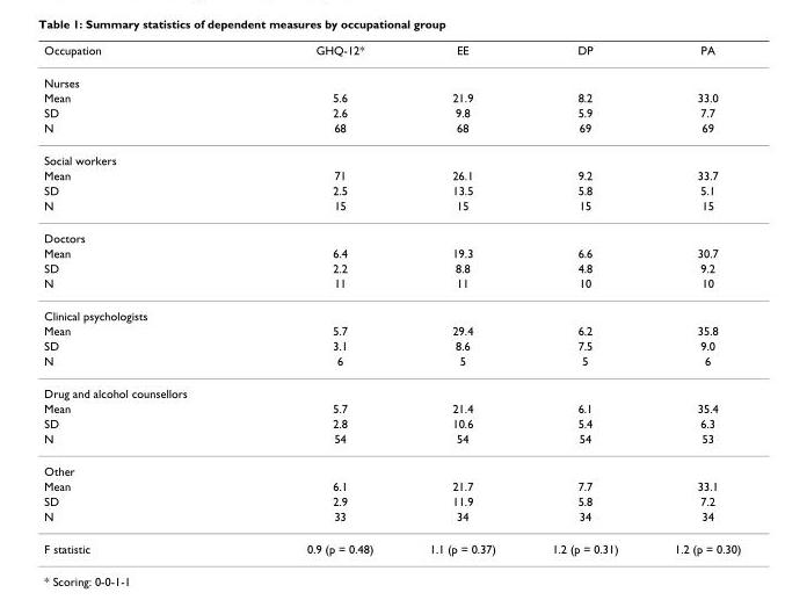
<table><thead><tr><td>Occupation</td><td>GHQ-12*</td><td>EE</td><td>DP</td><td>PA</td></tr></thead><tbody><tr><td colspan="5">Nurses</td></tr><tr><td>Mean</td><td>5.6</td><td>21.9</td><td>8.2</td><td>33.0</td></tr><tr><td>SD</td><td>2.6</td><td>9.8</td><td>5.9</td><td>7.7</td></tr><tr><td>N</td><td>68</td><td>68</td><td>69</td><td>69</td></tr><tr><td colspan="5">Social workers</td></tr><tr><td>Mean</td><td>71</td><td>26.1</td><td>9.2</td><td>33.7</td></tr><tr><td>SD</td><td>2.5</td><td>13.5</td><td>5.8</td><td>5.1</td></tr><tr><td>N</td><td>15</td><td>15</td><td>15</td><td>15</td></tr><tr><td colspan="5">Doctors</td></tr><tr><td>Mean</td><td>6.4</td><td>19.3</td><td>6.6</td><td>30.7</td></tr><tr><td>SD</td><td>2.2</td><td>8.8</td><td>4.8</td><td>9.2</td></tr><tr><td>N</td><td>11</td><td>11</td><td>10</td><td>10</td></tr><tr><td colspan="5">Clinical psychologists</td></tr><tr><td>Mean</td><td>5.7</td><td>29.4</td><td>6.2</td><td>35.8</td></tr><tr><td>SD</td><td>3.1</td><td>8.6</td><td>7.5</td><td>9.0</td></tr><tr><td>N</td><td>6</td><td>5</td><td>5</td><td>6</td></tr><tr><td colspan="5">Drug and alcohol counsellors</td></tr><tr><td>Mean</td><td>5.7</td><td>21.4</td><td>6.1</td><td>35.4</td></tr><tr><td>SD</td><td>2.8</td><td>10.6</td><td>5.4</td><td>6.3</td></tr><tr><td>N</td><td>54</td><td>54</td><td>54</td><td>53</td></tr><tr><td colspan="5">Other</td></tr><tr><td>Mean</td><td>6.1</td><td>21.7</td><td>7.7</td><td>33.1</td></tr><tr><td>SD</td><td>2.9</td><td>11.9</td><td>5.8</td><td>7.2</td></tr><tr><td>N</td><td>33</td><td>34</td><td>34</td><td>34</td></tr><tr><td>F statistic</td><td>0.9 (p = 0.48)</td><td>1.1 (p = 0.37)</td><td>1.2 (p = 0.31)</td><td>1.2 (p = 0.30)</td></tr></tbody></table>